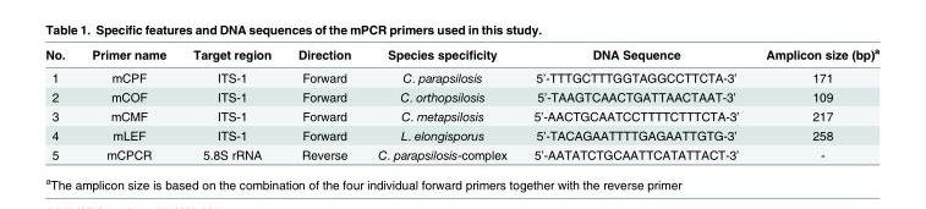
<table><thead><tr><td>No.</td><td>Primer name</td><td>Target region</td><td>Direction</td><td>Species specificity</td><td>DNA Sequence</td><td>Amplicon size (bp)<sup>a</sup></td></tr></thead><tbody><tr><td>1</td><td>mCPF</td><td>ITS-1</td><td>Forward</td><td>C. parapsilosis</td><td>5’-TTTGCTTTGGTAGGCCTTCTA-3’</td><td>171</td></tr><tr><td>2</td><td>mCOF</td><td>ITS-1</td><td>Forward</td><td>C. orthopsilosis</td><td>5’-TAAGTCAACTGATTAACTAAT-3’</td><td>109</td></tr><tr><td>3</td><td>mCMF</td><td>ITS-1</td><td>Forward</td><td>C. metapsilosis</td><td>5’-AACTGCAATCCTTTTCTTTCTA-3’</td><td>217</td></tr><tr><td>4</td><td>mLEF</td><td>ITS-1</td><td>Forward</td><td>L. elongisporus</td><td>5’-TACAGAATTTTGAGAATTGTG-3’</td><td>258</td></tr><tr><td>5</td><td>mCPCR</td><td>5.8S rRNA</td><td>Reverse</td><td>C. parapsilosis-complex</td><td>5’-AATATCTGCAATTCATATTACT-3’</td><td>-</td></tr></tbody></table>